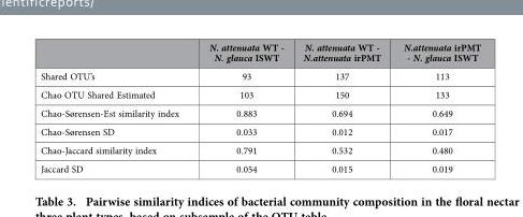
<table><thead><tr><td></td><td>N. attenuata WT - N. glauca ISWT</td><td>N. attenuata WT - N.attenuata irPMT</td><td>N.attenuata irPMT - N. glauca ISWT</td></tr></thead><tbody><tr><td>Shared OTU’s</td><td>93</td><td>137</td><td>113</td></tr><tr><td>Chao OTU Shared Estimated</td><td>103</td><td>150</td><td>133</td></tr><tr><td>Chao-Sørensen-Est similarity index</td><td>0.883</td><td>0.694</td><td>0.649</td></tr><tr><td>Chao-Sørensen SD</td><td>0.033</td><td>0.012</td><td>0.017</td></tr><tr><td>Chao-Jaccard similarity index</td><td>0.791</td><td>0.532</td><td>0.480</td></tr><tr><td>Jaccard SD</td><td>0.054</td><td>0.015</td><td>0.019</td></tr></tbody></table>